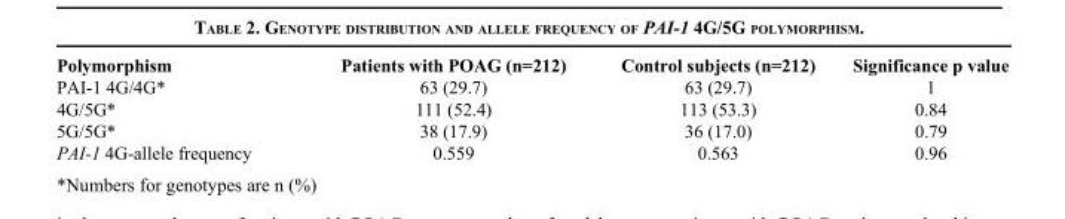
<table><thead><tr><td>Polymorphism</td><td>Patients with POAG (n=212)</td><td>Control subjects (n=212)</td><td>Significance p value</td></tr></thead><tbody><tr><td>PAI-1 4G/4G*</td><td>63 (29.7)</td><td>63 (29.7)</td><td>1</td></tr><tr><td>4G/5G*</td><td>111 (52.4)</td><td>113 (53.3)</td><td>0.84</td></tr><tr><td>5G/5G*</td><td>38 (17.9)</td><td>36 (17.0)</td><td>0.79</td></tr><tr><td>PAI-1 4G-allele frequency</td><td>0.559</td><td>0.563</td><td>0.96</td></tr></tbody></table>